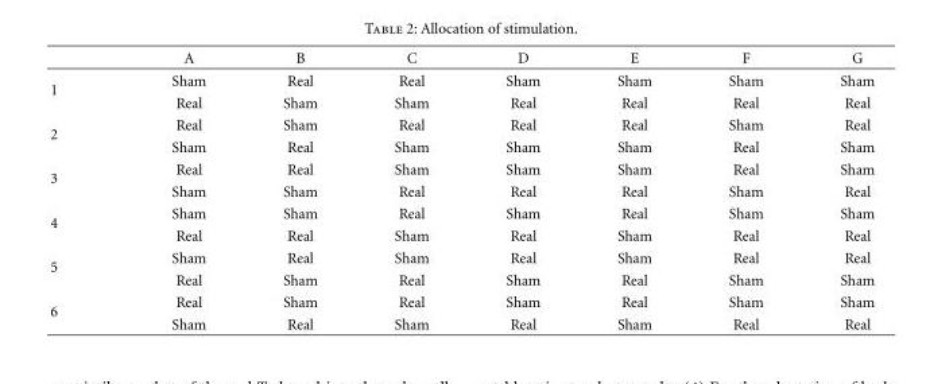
<table><thead><tr><td></td><td>A</td><td>B</td><td>C</td><td>D</td><td>E</td><td>F</td><td>G</td></tr></thead><tbody><tr><td rowspan="2">1</td><td>Sham</td><td>Real</td><td>Real</td><td>Sham</td><td>Sham</td><td>Sham</td><td>Sham</td></tr><tr><td>Real</td><td>Sham</td><td>Sham</td><td>Real</td><td>Real</td><td>Real</td><td>Real</td></tr><tr><td rowspan="2">2</td><td>Real</td><td>Sham</td><td>Real</td><td>Real</td><td>Real</td><td>Sham</td><td>Real</td></tr><tr><td>Sham</td><td>Real</td><td>Sham</td><td>Sham</td><td>Sham</td><td>Real</td><td>Sham</td></tr><tr><td rowspan="2">3</td><td>Real</td><td>Real</td><td>Sham</td><td>Sham</td><td>Sham</td><td>Real</td><td>Sham</td></tr><tr><td>Sham</td><td>Sham</td><td>Real</td><td>Real</td><td>Real</td><td>Sham</td><td>Real</td></tr><tr><td rowspan="2">4</td><td>Sham</td><td>Sham</td><td>Real</td><td>Sham</td><td>Real</td><td>Sham</td><td>Sham</td></tr><tr><td>Real</td><td>Real</td><td>Sham</td><td>Real</td><td>Sham</td><td>Real</td><td>Real</td></tr><tr><td rowspan="2">5</td><td>Sham</td><td>Real</td><td>Sham</td><td>Real</td><td>Sham</td><td>Real</td><td>Real</td></tr><tr><td>Real</td><td>Sham</td><td>Real</td><td>Sham</td><td>Real</td><td>Sham</td><td>Sham</td></tr><tr><td rowspan="2">6</td><td>Real</td><td>Sham</td><td>Real</td><td>Sham</td><td>Real</td><td>Sham</td><td>Sham</td></tr><tr><td>Sham</td><td>Real</td><td>Sham</td><td>Real</td><td>Sham</td><td>Real</td><td>Real</td></tr></tbody></table>